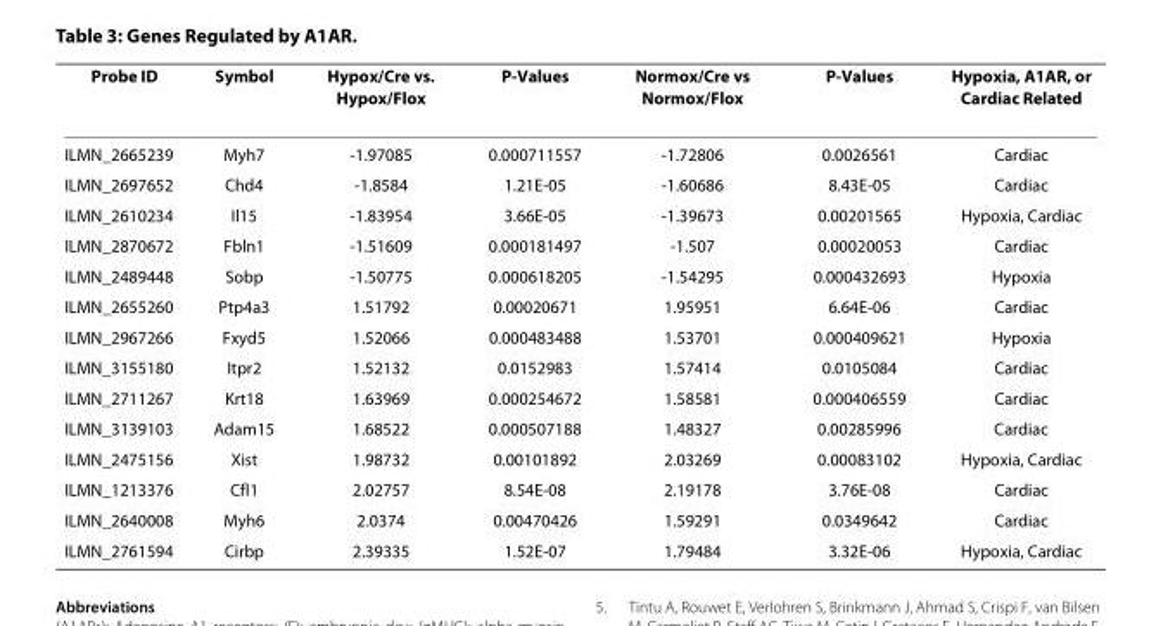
<table><thead><tr><td>Probe ID</td><td>Symbol</td><td>Hypox/Cre vs. Hypox/Flox</td><td>P-Values</td><td>Normox/Cre vs Normox/Flox</td><td>P-Values</td><td>Hypoxia, A1AR, or Cardiac Related</td></tr></thead><tbody><tr><td>ILMN_2665239</td><td>Myh7</td><td>-1.97085</td><td>0.000711557</td><td>-1.72806</td><td>0.0026561</td><td>Cardiac</td></tr><tr><td>ILMN_2697652</td><td>Chd4</td><td>-1.8584</td><td>1.21E-05</td><td>-1.60686</td><td>8.43E-05</td><td>Cardiac</td></tr><tr><td>ILMN_2610234</td><td>Il15</td><td>-1.83954</td><td>3.66E-05</td><td>-1.39673</td><td>0.00201565</td><td>Hypoxia, Cardiac</td></tr><tr><td>ILMN_2870672</td><td>Fbln1</td><td>-1.51609</td><td>0.000181497</td><td>-1.507</td><td>0.00020053</td><td>Cardiac</td></tr><tr><td>ILMN_2489448</td><td>Sobp</td><td>-1.50775</td><td>0.000618205</td><td>-1.54295</td><td>0.000432693</td><td>Hypoxia</td></tr><tr><td>ILMN_2655260</td><td>Ptp4a3</td><td>1.51792</td><td>0.00020671</td><td>1.95951</td><td>6.64E-06</td><td>Cardiac</td></tr><tr><td>ILMN_2967266</td><td>Fxyd5</td><td>1.52066</td><td>0.000483488</td><td>1.53701</td><td>0.000409621</td><td>Hypoxia</td></tr><tr><td>ILMN_3155180</td><td>Itpr2</td><td>1.52132</td><td>0.0152983</td><td>1.57414</td><td>0.0105084</td><td>Cardiac</td></tr><tr><td>ILMN_2711267</td><td>Krt18</td><td>1.63969</td><td>0.000254672</td><td>1.58581</td><td>0.000406559</td><td>Cardiac</td></tr><tr><td>ILMN_3139103</td><td>Adam15</td><td>1.68522</td><td>0.000507188</td><td>1.48327</td><td>0.00285996</td><td>Cardiac</td></tr><tr><td>ILMN_2475156</td><td>Xist</td><td>1.98732</td><td>0.00101892</td><td>2.03269</td><td>0.00083102</td><td>Hypoxia, Cardiac</td></tr><tr><td>ILMN_1213376</td><td>Cfl1</td><td>2.02757</td><td>8.54E-08</td><td>2.19178</td><td>3.76E-08</td><td>Cardiac</td></tr><tr><td>ILMN_2640008</td><td>Myh6</td><td>2.0374</td><td>0.00470426</td><td>1.59291</td><td>0.0349642</td><td>Cardiac</td></tr><tr><td>ILMN_2761594</td><td>Cirbp</td><td>2.39335</td><td>1.52E-07</td><td>1.79484</td><td>3.32E-06</td><td>Hypoxia, Cardiac</td></tr></tbody></table>